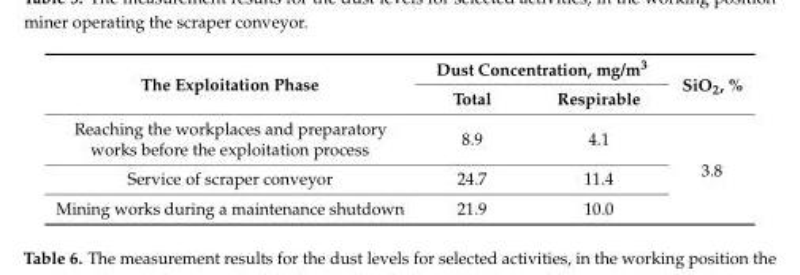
<table><thead><tr><td rowspan="2">The Exploitation Phase</td><td colspan="2">Dust Concentration, mg/m<sup>3</sup></td><td rowspan="2">SiO<sub>2</sub>, %</td></tr><tr><td>Total</td><td>Respirable</td></tr></thead><tbody><tr><td>Reaching the workplaces and preparatory works before the exploitation process</td><td>8.9</td><td>4.1</td><td rowspan="3">3.8</td></tr><tr><td>Service of scraper conveyor</td><td>24.7</td><td>11.4</td></tr><tr><td>Mining works during a maintenance shutdown</td><td>21.9</td><td>10.0</td></tr></tbody></table>